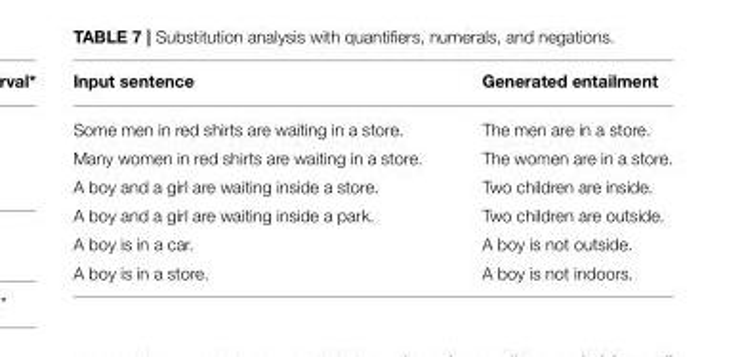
<table><thead><tr><td>Input sentence</td><td>Generated entailment</td></tr></thead><tbody><tr><td>Some men in red shirts are waiting in a store.</td><td>The men are in a store.</td></tr><tr><td>Many women in red shirts are waiting in a store.</td><td>The women are in a store.</td></tr><tr><td>A boy and a girl are waiting inside a store.</td><td>Two children are inside.</td></tr><tr><td>A boy and a girl are waiting inside a park.</td><td>Two children are outside.</td></tr><tr><td>A boy is in a car.</td><td>A boy is not outside.</td></tr><tr><td>A boy is in a store.</td><td>A boy is not indoors.</td></tr></tbody></table>